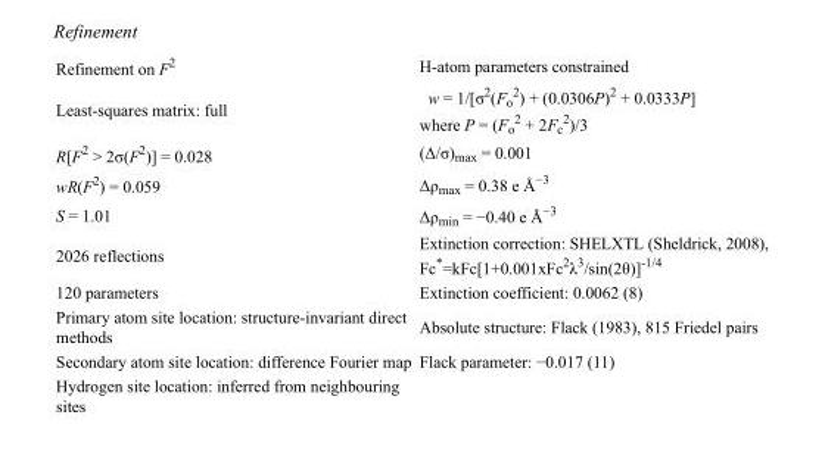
<table><tbody><tr><td>Refinement on F<sup>2</sup></td><td>H-atom parameters constrained</td></tr><tr><td>Least-squares matrix: full</td><td>w = 1/[σ<sup>2</sup>(F<sub>o</sub> <sup>2</sup>) + (0.0306P)<sup>2</sup> + 0.0333P] where P = (F<sub>o</sub> <sup>2</sup> + 2F<sub>c</sub> <sup>2</sup>)/3</td></tr><tr><td>R[F<sup>2</sup> &gt; 2σ(F<sup>2</sup>)] = 0.028</td><td>(Δ/σ)<sub>max</sub> = 0.001</td></tr><tr><td>wR(F<sup>2</sup>) = 0.059</td><td>Δρ<sub>max</sub> = 0.38 e Å<sup>−3</sup></td></tr><tr><td>S = 1.01</td><td>Δρ<sub>min</sub> = −0.40 e Å<sup>−3</sup></td></tr><tr><td>2026 reflections</td><td>Extinction correction: SHELXTL (Sheldrick, 2008), Fc*=kFc[1+0.001xFc<sup>2</sup>λ<sup>3</sup>/sin(2θ)]<sup>-1/4</sup></td></tr><tr><td>120 parameters</td><td>Extinction coefficient: 0.0062 (8)</td></tr><tr><td>Primary atom site location: structure-invariant direct methods</td><td>Absolute structure: Flack (1983), 815 Friedel pairs</td></tr><tr><td>Secondary atom site location: difference Fourier map</td><td>Flack parameter: −0.017 (11)</td></tr><tr><td>Hydrogen site location: inferred from neighbouring sites</td><td></td></tr></tbody></table>